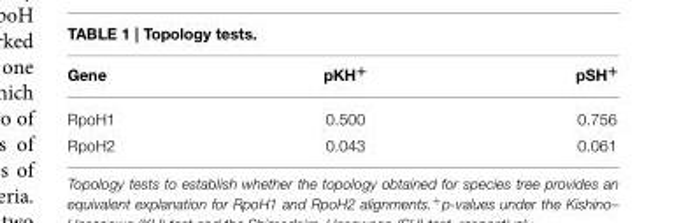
<table><thead><tr><td>Gene</td><td>pKH<sup>+</sup></td><td>pSH<sup>+</sup></td></tr></thead><tbody><tr><td>RpoH1</td><td>0.500</td><td>0.756</td></tr><tr><td>RpoH2</td><td>0.043</td><td>0.061</td></tr></tbody></table>